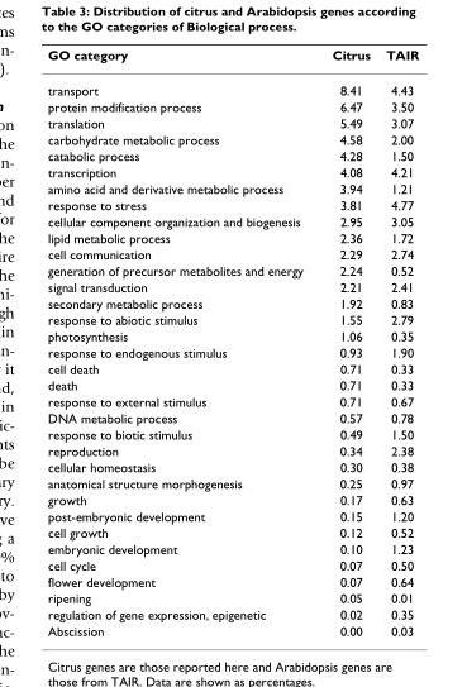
<table><thead><tr><td>GO category</td><td>Citrus</td><td>TAIR</td></tr></thead><tbody><tr><td>transport</td><td>8.41</td><td>4.43</td></tr><tr><td>protein modification process</td><td>6.47</td><td>3.50</td></tr><tr><td>translation</td><td>5.49</td><td>3.07</td></tr><tr><td>carbohydrate metabolic process</td><td>4.58</td><td>2.00</td></tr><tr><td>catabolic process</td><td>4.28</td><td>1.50</td></tr><tr><td>transcription</td><td>4.08</td><td>4.21</td></tr><tr><td>amino acid and derivative metabolic process</td><td>3.94</td><td>1.21</td></tr><tr><td>response to stress</td><td>3.81</td><td>4.77</td></tr><tr><td>cellular component organization and biogenesis</td><td>2.95</td><td>3.05</td></tr><tr><td>lipid metabolic process</td><td>2.36</td><td>1.72</td></tr><tr><td>cell communication</td><td>2.29</td><td>2.74</td></tr><tr><td>generation of precursor metabolites and energy</td><td>2.24</td><td>0.52</td></tr><tr><td>signal transduction</td><td>2.21</td><td>2.41</td></tr><tr><td>secondary metabolic process</td><td>1.92</td><td>0.83</td></tr><tr><td>response to abiotic stimulus</td><td>1.55</td><td>2.79</td></tr><tr><td>photosynthesis</td><td>1.06</td><td>0.35</td></tr><tr><td>response to endogenous stimulus</td><td>0.93</td><td>1.90</td></tr><tr><td>cell death</td><td>0.71</td><td>0.33</td></tr><tr><td>death</td><td>0.71</td><td>0.33</td></tr><tr><td>response to external stimulus</td><td>0.71</td><td>0.67</td></tr><tr><td>DNA metabolic process</td><td>0.57</td><td>0.78</td></tr><tr><td>response to biotic stimulus</td><td>0.49</td><td>1.50</td></tr><tr><td>reproduction</td><td>0.34</td><td>2.38</td></tr><tr><td>cellular homeostasis</td><td>0.30</td><td>0.38</td></tr><tr><td>anatomical structure morphogenesis</td><td>0.25</td><td>0.97</td></tr><tr><td>growth</td><td>0.17</td><td>0.63</td></tr><tr><td>post-embryonic development</td><td>0.15</td><td>1.20</td></tr><tr><td>cell growth</td><td>0.12</td><td>0.52</td></tr><tr><td>embryonic development</td><td>0.10</td><td>1.23</td></tr><tr><td>cell cycle</td><td>0.07</td><td>0.50</td></tr><tr><td>flower development</td><td>0.07</td><td>0.64</td></tr><tr><td>ripening</td><td>0.05</td><td>0.01</td></tr><tr><td>regulation of gene expression, epigenetic</td><td>0.02</td><td>0.35</td></tr><tr><td>Abscission</td><td>0.00</td><td>0.03</td></tr></tbody></table>